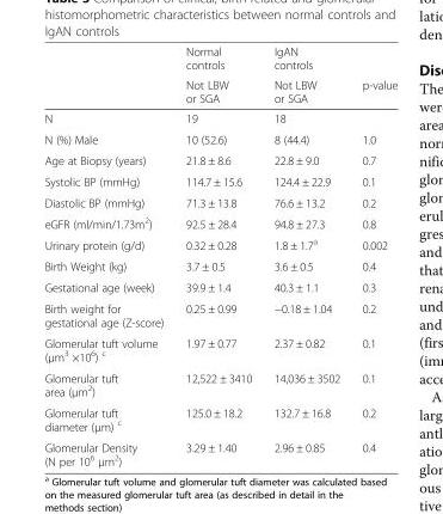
<table><thead><tr><td rowspan="2"></td><td rowspan="2">Normal controls Not LBW or SGA</td><td rowspan="2">IgAN controls Not LBW or SGA</td><td rowspan="2">p-value</td></tr><tr></tr></thead><tbody><tr><td>N</td><td>19</td><td>18</td><td></td></tr><tr><td>N (%) Male</td><td>10 (52.6)</td><td>8 (44.4)</td><td>1.0</td></tr><tr><td>Age at Biopsy (years)</td><td>21.8 ± 8.6</td><td>22.8 ± 9.0</td><td>0.7</td></tr><tr><td>Systolic BP (mmHg)</td><td>114.7 ± 15.6</td><td>124.4 ± 22.9</td><td>0.1</td></tr><tr><td>Diastolic BP (mmHg)</td><td>71.3 ± 13.8</td><td>76.6 ± 13.2</td><td>0.2</td></tr><tr><td>eGFR (ml/min/1.73m<sup>2</sup>)</td><td>92.5 ± 28.4</td><td>94.8 ± 27.3</td><td>0.8</td></tr><tr><td>Urinary protein (g/d)</td><td>0.32 ± 0.28</td><td>1.8 ± 1.7<sup>a</sup></td><td>0.002</td></tr><tr><td>Birth Weight (kg)</td><td>3.7 ± 0.5</td><td>3.6 ± 0.5</td><td>0.4</td></tr><tr><td>Gestational age (week)</td><td>39.9 ± 1.4</td><td>40.3 ± 1.1</td><td>0.3</td></tr><tr><td>Birth weight for gestational age (Z-score)</td><td>0.25 ± 0.99</td><td>−0.18 ± 1.04</td><td>0.2</td></tr><tr><td>Glomerular tuft volume (μm<sup>3</sup> ×10<sup>6</sup>) <sup>c</sup></td><td>1.97 ± 0.77</td><td>2.37 ± 0.82</td><td>0.1</td></tr><tr><td>Glomerular tuft area (μm<sup>2</sup>)</td><td>12,522 ± 3410</td><td>14,036 ± 3502</td><td>0.1</td></tr><tr><td>Glomerular tuft diameter (μm) <sup>c</sup></td><td>125.0 ± 18.2</td><td>132.7 ± 16.8</td><td>0.2</td></tr><tr><td>Glomerular Density (N per 10<sup>6</sup> μm<sup>2</sup>)</td><td>3.29 ± 1.40</td><td>2.96 ± 0.85</td><td>0.4</td></tr></tbody></table>